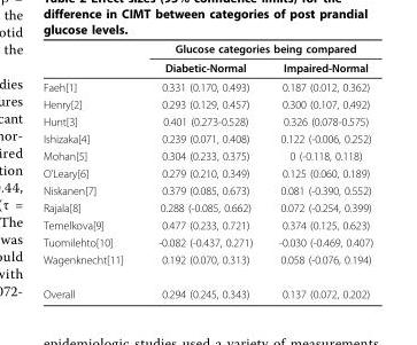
<table><thead><tr><td rowspan="2"></td><td colspan="2">Glucose categories being compared</td></tr><tr><td>Diabetic-Normal</td><td>Impaired-Normal</td></tr></thead><tbody><tr><td>Faeh[1]</td><td>0.331 (0.170, 0.493)</td><td>0.187 (0.012, 0.362)</td></tr><tr><td>Henry[2]</td><td>0.293 (0.129, 0.457)</td><td>0.300 (0.107, 0.492)</td></tr><tr><td>Hunt[3]</td><td>0.401 (0.273-0.528)</td><td>0.326 (0.078-0.575)</td></tr><tr><td>Ishizaka[4]</td><td>0.239 (0.071, 0.408)</td><td>0.122 (-0.006, 0.252)</td></tr><tr><td>Mohan[5]</td><td>0.304 (0.233, 0.375)</td><td>0 (-0.118, 0.118)</td></tr><tr><td>O’Leary[6]</td><td>0.279 (0.210, 0.349)</td><td>0.125 (0.060, 0.189)</td></tr><tr><td>Niskanen[7]</td><td>0.379 (0.085, 0.673)</td><td>0.081 (-0.390, 0.552)</td></tr><tr><td>Rajala[8]</td><td>0.288 (-0.085, 0.662)</td><td>0.072 (-0.254, 0.399)</td></tr><tr><td>Temelkova[9]</td><td>0.477 (0.233, 0.721)</td><td>0.374 (0.125, 0.623)</td></tr><tr><td>Tuomilehto[10]</td><td>-0.082 (-0.437, 0.271)</td><td>-0.030 (-0.469, 0.407)</td></tr><tr><td>Wagenknecht[11]</td><td>0.192 (0.070, 0.313)</td><td>0.058 (-0.076, 0.194)</td></tr><tr><td>Overall</td><td>0.294 (0.245, 0.343)</td><td>0.137 (0.072, 0.202)</td></tr></tbody></table>